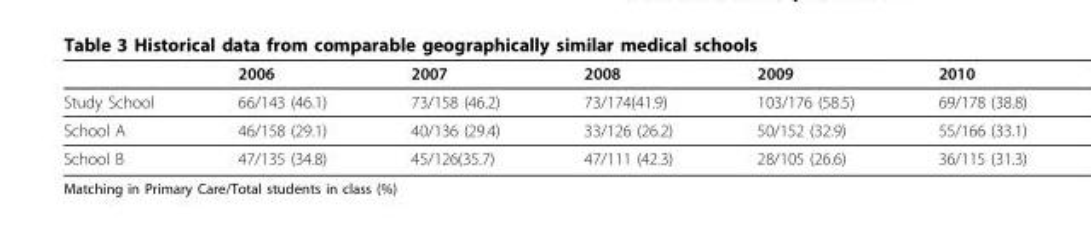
<table><thead><tr><td></td><td>2006</td><td>2007</td><td>2008</td><td>2009</td><td>2010</td></tr></thead><tbody><tr><td>Study School</td><td>66/143 (46.1)</td><td>73/158 (46.2)</td><td>73/174(41.9)</td><td>103/176 (58.5)</td><td>69/178 (38.8)</td></tr><tr><td>School A</td><td>46/158 (29.1)</td><td>40/136 (29.4)</td><td>33/126 (26.2)</td><td>50/152 (32.9)</td><td>55/166 (33.1)</td></tr><tr><td>School B</td><td>47/135 (34.8)</td><td>45/126(35.7)</td><td>47/111 (42.3)</td><td>28/105 (26.6)</td><td>36/115 (31.3)</td></tr></tbody></table>